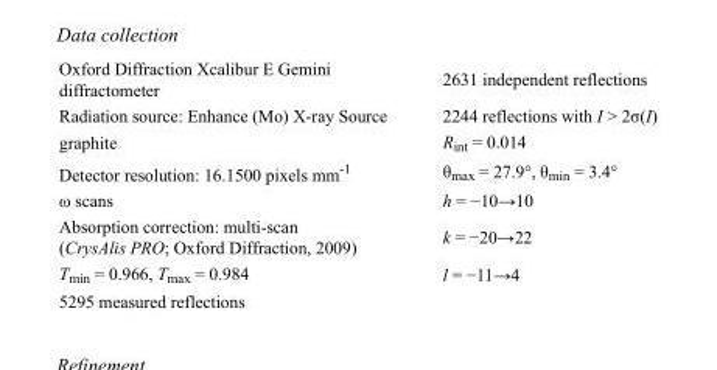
<table><tbody><tr><td>Oxford Diffraction Xcalibur E Gemini diffractometer</td><td>2631 independent reflections</td></tr><tr><td>Radiation source: Enhance (Mo) X-ray Source</td><td>2244 reflections with I &gt; 2σ(I)</td></tr><tr><td>graphite</td><td>R<sub>int</sub> = 0.014</td></tr><tr><td>Detector resolution: 16.1500 pixels mm<sup>-1</sup></td><td>θ<sub>max</sub> = 27.9°, θ<sub>min</sub> = 3.4°</td></tr><tr><td>ω scans</td><td>h = −10→10</td></tr><tr><td>Absorption correction: multi-scan (CrysAlis PRO; Oxford Diffraction, 2009)</td><td>k = −20→22</td></tr><tr><td>T<sub>min</sub> = 0.966, T<sub>max</sub> = 0.984</td><td>l = −11→4</td></tr><tr><td>5295 measured reflections</td><td></td></tr></tbody></table>